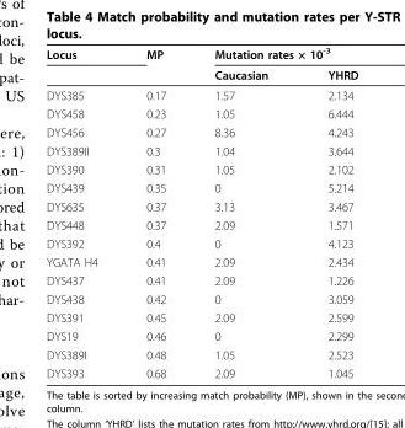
<table><thead><tr><td rowspan="2">Locus</td><td rowspan="2">MP</td><td colspan="2">Mutation rates × 10<sup>-3</sup></td></tr><tr><td>Caucasian</td><td>YHRD</td></tr></thead><tbody><tr><td>DYS385</td><td>0.17</td><td>1.57</td><td>2.134</td></tr><tr><td>DYS458</td><td>0.23</td><td>1.05</td><td>6.444</td></tr><tr><td>DYS456</td><td>0.27</td><td>8.36</td><td>4.243</td></tr><tr><td>DYS389II</td><td>0.3</td><td>1.04</td><td>3.644</td></tr><tr><td>DYS390</td><td>0.31</td><td>1.05</td><td>2.102</td></tr><tr><td>DYS439</td><td>0.35</td><td>0</td><td>5.214</td></tr><tr><td>DYS635</td><td>0.37</td><td>3.13</td><td>3.467</td></tr><tr><td>DYS448</td><td>0.37</td><td>2.09</td><td>1.571</td></tr><tr><td>DYS392</td><td>0.4</td><td>0</td><td>4.123</td></tr><tr><td>YGATA H4</td><td>0.41</td><td>2.09</td><td>2.434</td></tr><tr><td>DYS437</td><td>0.41</td><td>2.09</td><td>1.226</td></tr><tr><td>DYS438</td><td>0.42</td><td>0</td><td>3.059</td></tr><tr><td>DYS391</td><td>0.45</td><td>2.09</td><td>2.599</td></tr><tr><td>DYS19</td><td>0.46</td><td>0</td><td>2.299</td></tr><tr><td>DYS389I</td><td>0.48</td><td>1.05</td><td>2.523</td></tr><tr><td>DYS393</td><td>0.68</td><td>2.09</td><td>1.045</td></tr></tbody></table>